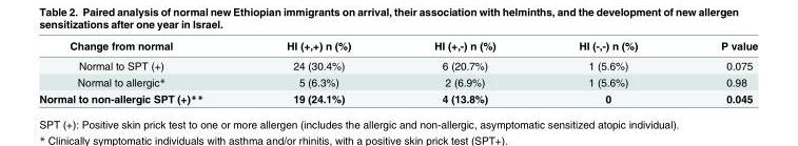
<table><thead><tr><td>Change from normal</td><td>HI (+,+) n (%)</td><td>HI (+,-) n (%)</td><td>HI (-,-) n (%)</td><td>P value</td></tr></thead><tbody><tr><td>Normal to SPT (+)</td><td>24 (30.4%)</td><td>6 (20.7%)</td><td>1 (5.6%)</td><td>0.075</td></tr><tr><td>Normal to allergic*</td><td>5 (6.3%)</td><td>2 (6.9%)</td><td>1 (5.6%)</td><td>0.98</td></tr><tr><td>Normal to non-allergic SPT (+)**</td><td>19 (24.1%)</td><td>4 (13.8%)</td><td>0</td><td>0.045</td></tr></tbody></table>